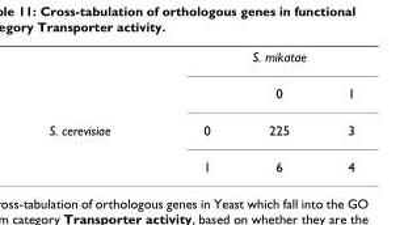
<table><thead><tr><td rowspan="2"></td><td colspan="3">S. mikatae</td></tr><tr><td></td><td>0</td><td>1</td></tr></thead><tbody><tr><td rowspan="2">S. cerevisiae</td><td>0</td><td>225</td><td>3</td></tr><tr><td>1</td><td>6</td><td>4</td></tr></tbody></table>